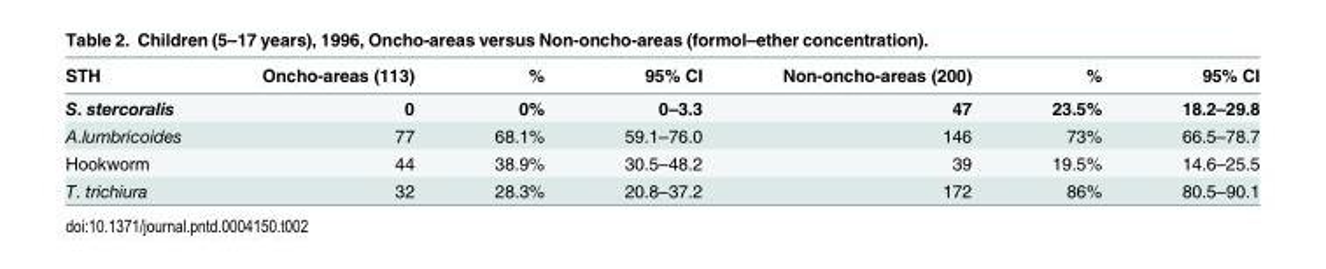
<table><thead><tr><td>STH</td><td>Oncho-areas (113)</td><td>%</td><td>95% CI</td><td>Non-oncho-areas (200)</td><td>%</td><td>95% CI</td></tr></thead><tbody><tr><td>S. stercoralis</td><td>0</td><td>0%</td><td>0–3.3</td><td>47</td><td>23.5%</td><td>18.2–29.8</td></tr><tr><td>A.lumbricoides</td><td>77</td><td>68.1%</td><td>59.1–76.0</td><td>146</td><td>73%</td><td>66.5–78.7</td></tr><tr><td>Hookworm</td><td>44</td><td>38.9%</td><td>30.5–48.2</td><td>39</td><td>19.5%</td><td>14.6–25.5</td></tr><tr><td>T. trichiura</td><td>32</td><td>28.3%</td><td>20.8–37.2</td><td>172</td><td>86%</td><td>80.5–90.1</td></tr></tbody></table>